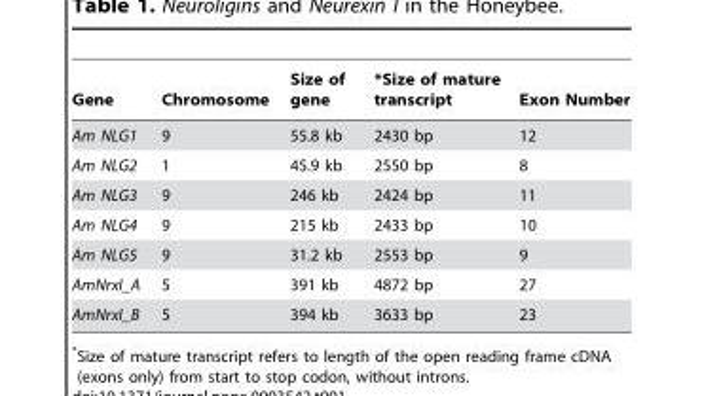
<table><thead><tr><td>Gene</td><td>Chromosome</td><td>Size of gene</td><td>*Size of mature transcript</td><td>Exon Number</td></tr></thead><tbody><tr><td>Am NLG1</td><td>9</td><td>55.8 kb</td><td>2430 bp</td><td>12</td></tr><tr><td>Am NLG2</td><td>1</td><td>45.9 kb</td><td>2550 bp</td><td>8</td></tr><tr><td>Am NLG3</td><td>9</td><td>246 kb</td><td>2424 bp</td><td>11</td></tr><tr><td>Am NLG4</td><td>9</td><td>215 kb</td><td>2433 bp</td><td>10</td></tr><tr><td>Am NLG5</td><td>9</td><td>31.2 kb</td><td>2553 bp</td><td>9</td></tr><tr><td>AmNrxI_A</td><td>5</td><td>391 kb</td><td>4872 bp</td><td>27</td></tr><tr><td>AmNrxI_B</td><td>5</td><td>394 kb</td><td>3633 bp</td><td>23</td></tr></tbody></table>